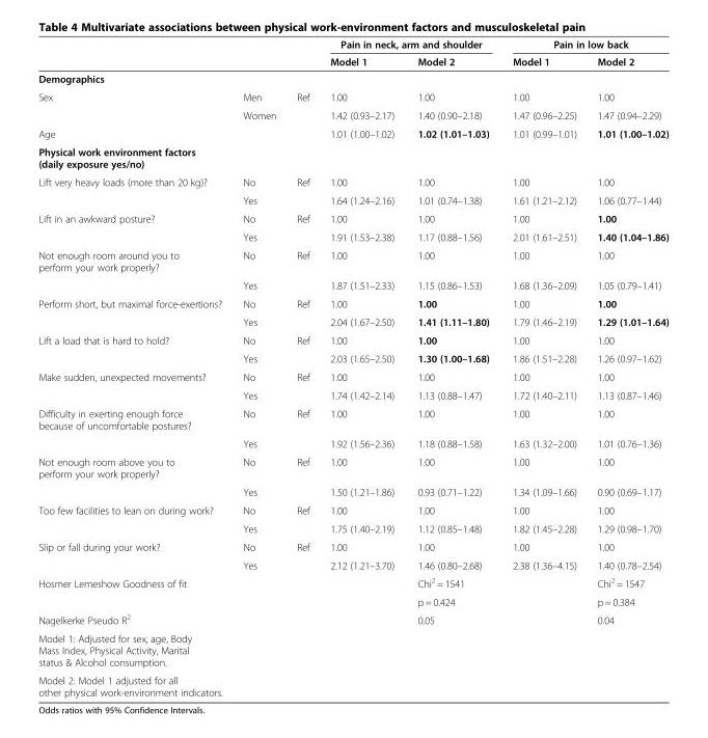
<table><thead><tr><td rowspan="2"></td><td rowspan="2"></td><td rowspan="2"></td><td colspan="2">Pain in neck, arm and shoulder</td><td colspan="2">Pain in low back</td></tr><tr><td>Model 1</td><td>Model 2</td><td>Model 1</td><td>Model 2</td></tr></thead><tbody><tr><td colspan="7">Demographics</td></tr><tr><td rowspan="2">Sex</td><td>Men</td><td>Ref</td><td>1.00</td><td>1.00</td><td>1.00</td><td>1.00</td></tr><tr><td>Women</td><td></td><td>1.42 (0.93–2.17)</td><td>1.40 (0.90–2.18)</td><td>1.47 (0.96–2.25)</td><td>1.47 (0.94–2.29)</td></tr><tr><td>Age</td><td></td><td></td><td>1.01 (1.00–1.02)</td><td>1.02 (1.01–1.03)</td><td>1.01 (0.99–1.01)</td><td>1.01 (1.00–1.02)</td></tr><tr><td colspan="7">Physical work environment factors (daily exposure yes/no)</td></tr><tr><td rowspan="2">Lift very heavy loads (more than 20 kg)?</td><td>No</td><td>Ref</td><td>1.00</td><td>1.00</td><td>1.00</td><td>1.00</td></tr><tr><td>Yes</td><td></td><td>1.64 (1.24–2.16)</td><td>1.01 (0.74–1.38)</td><td>1.61 (1.21–2.12)</td><td>1.06 (0.77–1.44)</td></tr><tr><td rowspan="2">Lift in an awkward posture?</td><td>No</td><td>Ref</td><td>1.00</td><td>1.00</td><td>1.00</td><td>1.00</td></tr><tr><td>Yes</td><td></td><td>1.91 (1.53–2.38)</td><td>1.17 (0.88–1.56)</td><td>2.01 (1.61–2.51)</td><td>1.40 (1.04–1.86)</td></tr><tr><td rowspan="2">Not enough room around you to perform your work properly?</td><td>No</td><td>Ref</td><td>1.00</td><td>1.00</td><td>1.00</td><td>1.00</td></tr><tr><td>Yes</td><td></td><td>1.87 (1.51–2.33)</td><td>1.15 (0.86–1.53)</td><td>1.68 (1.36–2.09)</td><td>1.05 (0.79–1.41)</td></tr><tr><td rowspan="2">Perform short, but maximal force-exertions?</td><td>No</td><td>Ref</td><td>1.00</td><td>1.00</td><td>1.00</td><td>1.00</td></tr><tr><td>Yes</td><td></td><td>2.04 (1.67–2.50)</td><td>1.41 (1.11–1.80)</td><td>1.79 (1.46–2.19)</td><td>1.29 (1.01–1.64)</td></tr><tr><td rowspan="2">Lift a load that is hard to hold?</td><td>No</td><td>Ref</td><td>1.00</td><td>1.00</td><td>1.00</td><td>1.00</td></tr><tr><td>Yes</td><td></td><td>2.03 (1.65–2.50)</td><td>1.30 (1.00–1.68)</td><td>1.86 (1.51–2.28)</td><td>1.26 (0.97–1.62)</td></tr><tr><td rowspan="2">Make sudden, unexpected movements?</td><td>No</td><td>Ref</td><td>1.00</td><td>1.00</td><td>1.00</td><td>1.00</td></tr><tr><td>Yes</td><td></td><td>1.74 (1.42–2.14)</td><td>1.13 (0.88–1.47)</td><td>1.72 (1.40–2.11)</td><td>1.13 (0.87–1.46)</td></tr><tr><td rowspan="2">Difficulty in exerting enough force because of uncomfortable postures?</td><td>No</td><td>Ref</td><td>1.00</td><td>1.00</td><td>1.00</td><td>1.00</td></tr><tr><td>Yes</td><td></td><td>1.92 (1.56–2.36)</td><td>1.18 (0.88–1.58)</td><td>1.63 (1.32–2.00)</td><td>1.01 (0.76–1.36)</td></tr><tr><td rowspan="2">Not enough room above you to perform your work properly?</td><td>No</td><td>Ref</td><td>1.00</td><td>1.00</td><td>1.00</td><td>1.00</td></tr><tr><td>Yes</td><td></td><td>1.50 (1.21–1.86)</td><td>0.93 (0.71–1.22)</td><td>1.34 (1.09–1.66)</td><td>0.90 (0.69–1.17)</td></tr><tr><td rowspan="2">Too few facilities to lean on during work?</td><td>No</td><td>Ref</td><td>1.00</td><td>1.00</td><td>1.00</td><td>1.00</td></tr><tr><td>Yes</td><td></td><td>1.75 (1.40–2.19)</td><td>1.12 (0.85–1.48)</td><td>1.82 (1.45–2.28)</td><td>1.29 (0.98–1.70)</td></tr><tr><td rowspan="2">Slip or fall during your work?</td><td>No</td><td>Ref</td><td>1.00</td><td>1.00</td><td>1.00</td><td>1.00</td></tr><tr><td>Yes</td><td></td><td>2.12 (1.21–3.70)</td><td>1.46 (0.80–2.68)</td><td>2.38 (1.36–4.15)</td><td>1.40 (0.78–2.54)</td></tr><tr><td rowspan="2">Hosmer Lemeshow Goodness of fit</td><td rowspan="2"></td><td rowspan="2"></td><td rowspan="2"></td><td>Chi<sup>2</sup> = 1541</td><td rowspan="2"></td><td>Chi<sup>2</sup> = 1547</td></tr><tr><td>p = 0.424</td><td>p = 0.384</td></tr><tr><td>Nagelkerke Pseudo R<sup>2</sup></td><td></td><td></td><td></td><td>0.05</td><td></td><td>0.04</td></tr><tr><td colspan="7">Model 1: Adjusted for sex, age, Body Mass Index, Physical Activity, Marital status &amp; Alcohol consumption.</td></tr><tr><td>Model 2: Model 1 adjusted for all other physical work-environment indicators.</td><td></td><td></td><td></td><td></td><td></td><td></td></tr></tbody></table>